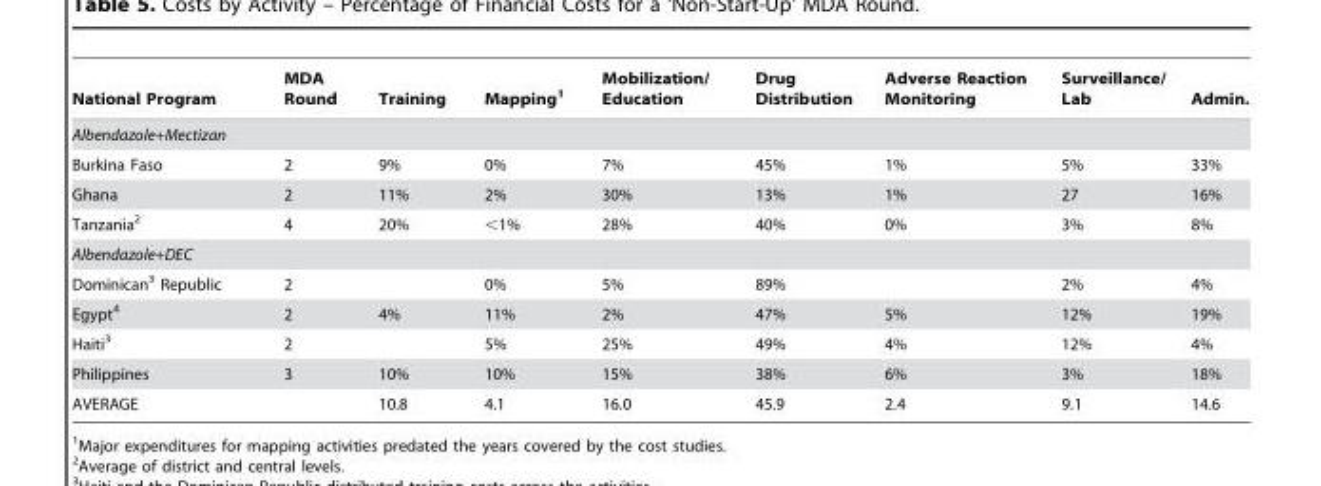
<table><thead><tr><td>National Program</td><td>MDA Round</td><td>Training</td><td>Mapping<sup>1</sup></td><td>Mobilization/ Education</td><td>Drug Distribution</td><td>Adverse Reaction Monitoring</td><td>Surveillance/ Lab</td><td>Admin.</td></tr></thead><tbody><tr><td colspan="9">Albendazole+Mectizan</td></tr><tr><td>Burkina Faso</td><td>2</td><td>9%</td><td>0%</td><td>7%</td><td>45%</td><td>1%</td><td>5%</td><td>33%</td></tr><tr><td>Ghana</td><td>2</td><td>11%</td><td>2%</td><td>30%</td><td>13%</td><td>1%</td><td>27</td><td>16%</td></tr><tr><td>Tanzania<sup>2</sup></td><td>4</td><td>20%</td><td>&lt;1%</td><td>28%</td><td>40%</td><td>0%</td><td>3%</td><td>8%</td></tr><tr><td colspan="9">Albendazole+DEC</td></tr><tr><td>Dominican<sup>3</sup> Republic</td><td>2</td><td></td><td>0%</td><td>5%</td><td>89%</td><td></td><td>2%</td><td>4%</td></tr><tr><td>Egypt<sup>4</sup></td><td>2</td><td>4%</td><td>11%</td><td>2%</td><td>47%</td><td>5%</td><td>12%</td><td>19%</td></tr><tr><td>Haiti<sup>3</sup></td><td>2</td><td></td><td>5%</td><td>25%</td><td>49%</td><td>4%</td><td>12%</td><td>4%</td></tr><tr><td>Philippines</td><td>3</td><td>10%</td><td>10%</td><td>15%</td><td>38%</td><td>6%</td><td>3%</td><td>18%</td></tr><tr><td>AVERAGE</td><td></td><td>10.8</td><td>4.1</td><td>16.0</td><td>45.9</td><td>2.4</td><td>9.1</td><td>14.6</td></tr></tbody></table>